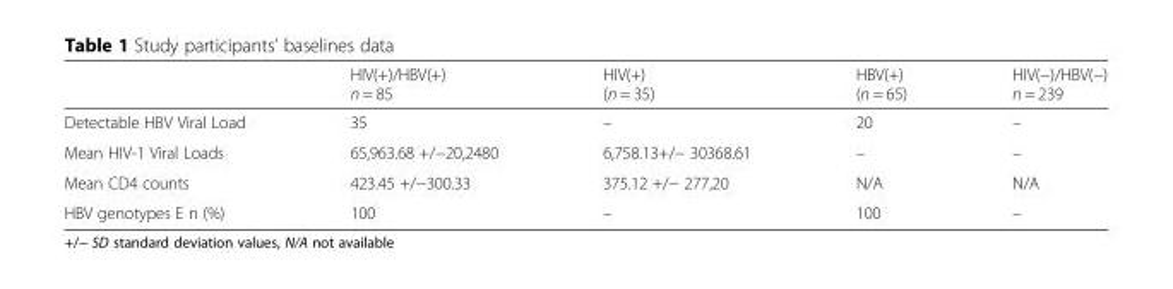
<table><thead><tr><td></td><td>HIV(+)/HBV(+) n = 85</td><td>HIV(+) (n = 35)</td><td>HBV(+) (n = 65)</td><td>HIV(−)/HBV(−) n = 239</td></tr></thead><tbody><tr><td>Detectable HBV Viral Load</td><td>35</td><td>–</td><td>20</td><td>–</td></tr><tr><td>Mean HIV-1 Viral Loads</td><td>65,963.68 +/−20,2480</td><td>6,758.13+/− 30368.61</td><td>–</td><td>–</td></tr><tr><td>Mean CD4 counts</td><td>423.45 +/−300.33</td><td>375.12 +/− 277,20</td><td>N/A</td><td>N/A</td></tr><tr><td>HBV genotypes E n (%)</td><td>100</td><td>–</td><td>100</td><td>–</td></tr></tbody></table>